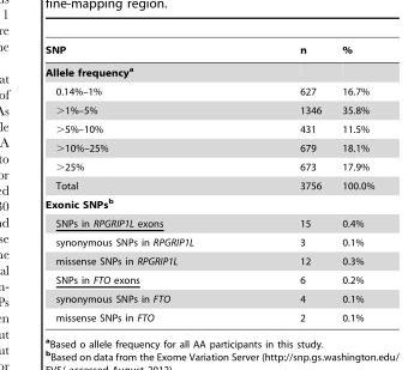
<table><thead><tr><td>SNP</td><td>n</td><td>%</td></tr></thead><tbody><tr><td colspan="3">Allele frequencya</td></tr><tr><td>0.14%–1%</td><td>627</td><td>16.7%</td></tr><tr><td>&gt;1%–5%</td><td>1346</td><td>35.8%</td></tr><tr><td>&gt;5%–10%</td><td>431</td><td>11.5%</td></tr><tr><td>&gt;10%–25%</td><td>679</td><td>18.1%</td></tr><tr><td>&gt;25%</td><td>673</td><td>17.9%</td></tr><tr><td>Total</td><td>3756</td><td>100.0%</td></tr><tr><td colspan="3">Exonic SNPsb</td></tr><tr><td>SNPs in RPGRIP1L exons</td><td>15</td><td>0.4%</td></tr><tr><td>synonymous SNPs in RPGRIP1L</td><td>3</td><td>0.1%</td></tr><tr><td>missense SNPs in RPGRIP1L</td><td>12</td><td>0.3%</td></tr><tr><td>SNPs in FTO exons</td><td>6</td><td>0.2%</td></tr><tr><td>synonymous SNPs in FTO</td><td>4</td><td>0.1%</td></tr><tr><td>missense SNPs in FTO</td><td>2</td><td>0.1%</td></tr></tbody></table>